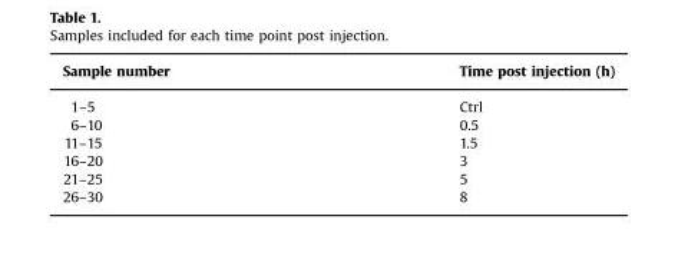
<table><thead><tr><td>Sample number</td><td>Time post injection (h)</td></tr></thead><tbody><tr><td>1–5</td><td>Ctrl</td></tr><tr><td>6–10</td><td>0.5</td></tr><tr><td>11–15</td><td>1.5</td></tr><tr><td>16–20</td><td>3</td></tr><tr><td>21–25</td><td>5</td></tr><tr><td>26–30</td><td>8</td></tr></tbody></table>